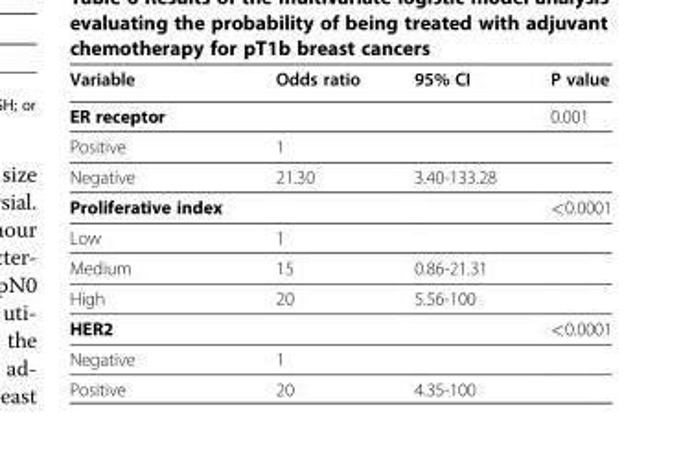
<table><thead><tr><td>Variable</td><td>Odds ratio</td><td>95% CI</td><td>P value</td></tr></thead><tbody><tr><td>ER receptor</td><td></td><td></td><td>0.001</td></tr><tr><td>Positive</td><td>1</td><td></td><td></td></tr><tr><td>Negative</td><td>21.30</td><td>3.40-133.28</td><td></td></tr><tr><td>Proliferative index</td><td></td><td></td><td>&lt;0.0001</td></tr><tr><td>Low</td><td>1</td><td></td><td></td></tr><tr><td>Medium</td><td>15</td><td>0.86-21.31</td><td></td></tr><tr><td>High</td><td>20</td><td>5.56-100</td><td></td></tr><tr><td>HER2</td><td></td><td></td><td>&lt;0.0001</td></tr><tr><td>Negative</td><td>1</td><td></td><td></td></tr><tr><td>Positive</td><td>20</td><td>4.35-100</td><td></td></tr></tbody></table>